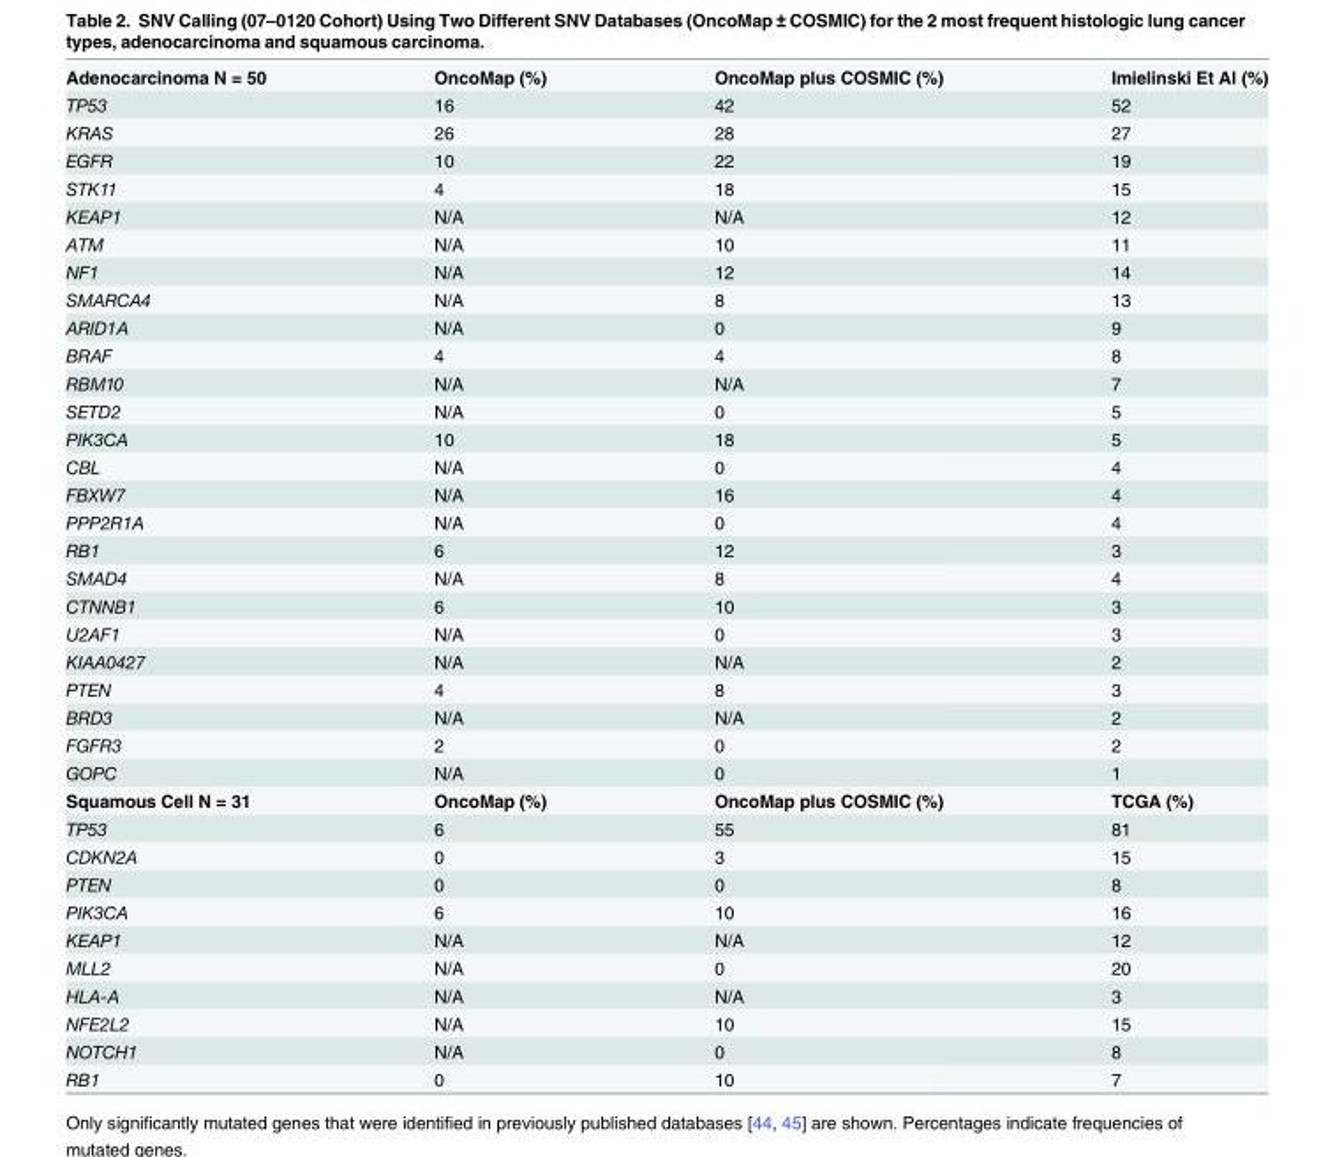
<table><tbody><tr><td>Adenocarcinoma N = 50</td><td>OncoMap (%)</td><td>OncoMap plus COSMIC (%)</td><td>Imielinski Et Al (%)</td></tr><tr><td>TP53</td><td>16</td><td>42</td><td>52</td></tr><tr><td>KRAS</td><td>26</td><td>28</td><td>27</td></tr><tr><td>EGFR</td><td>10</td><td>22</td><td>19</td></tr><tr><td>STK11</td><td>4</td><td>18</td><td>15</td></tr><tr><td>KEAP1</td><td>N/A</td><td>N/A</td><td>12</td></tr><tr><td>ATM</td><td>N/A</td><td>10</td><td>11</td></tr><tr><td>NF1</td><td>N/A</td><td>12</td><td>14</td></tr><tr><td>SMARCA4</td><td>N/A</td><td>8</td><td>13</td></tr><tr><td>ARID1A</td><td>N/A</td><td>0</td><td>9</td></tr><tr><td>BRAF</td><td>4</td><td>4</td><td>8</td></tr><tr><td>RBM10</td><td>N/A</td><td>N/A</td><td>7</td></tr><tr><td>SETD2</td><td>N/A</td><td>0</td><td>5</td></tr><tr><td>PIK3CA</td><td>10</td><td>18</td><td>5</td></tr><tr><td>CBL</td><td>N/A</td><td>0</td><td>4</td></tr><tr><td>FBXW7</td><td>N/A</td><td>16</td><td>4</td></tr><tr><td>PPP2R1A</td><td>N/A</td><td>0</td><td>4</td></tr><tr><td>RB1</td><td>6</td><td>12</td><td>3</td></tr><tr><td>SMAD4</td><td>N/A</td><td>8</td><td>4</td></tr><tr><td>CTNNB1</td><td>6</td><td>10</td><td>3</td></tr><tr><td>U2AF1</td><td>N/A</td><td>0</td><td>3</td></tr><tr><td>KIAA0427</td><td>N/A</td><td>N/A</td><td>2</td></tr><tr><td>PTEN</td><td>4</td><td>8</td><td>3</td></tr><tr><td>BRD3</td><td>N/A</td><td>N/A</td><td>2</td></tr><tr><td>FGFR3</td><td>2</td><td>0</td><td>2</td></tr><tr><td>GOPC</td><td>N/A</td><td>0</td><td>1</td></tr><tr><td>Squamous Cell N = 31</td><td>OncoMap (%)</td><td>OncoMap plus COSMIC (%)</td><td>TCGA (%)</td></tr><tr><td>TP53</td><td>6</td><td>55</td><td>81</td></tr><tr><td>CDKN2A</td><td>0</td><td>3</td><td>15</td></tr><tr><td>PTEN</td><td>0</td><td>0</td><td>8</td></tr><tr><td>PIK3CA</td><td>6</td><td>10</td><td>16</td></tr><tr><td>KEAP1</td><td>N/A</td><td>N/A</td><td>12</td></tr><tr><td>MLL2</td><td>N/A</td><td>0</td><td>20</td></tr><tr><td>HLA-A</td><td>N/A</td><td>N/A</td><td>3</td></tr><tr><td>NFE2L2</td><td>N/A</td><td>10</td><td>15</td></tr><tr><td>NOTCH1</td><td>N/A</td><td>0</td><td>8</td></tr><tr><td>RB1</td><td>0</td><td>10</td><td>7</td></tr></tbody></table>